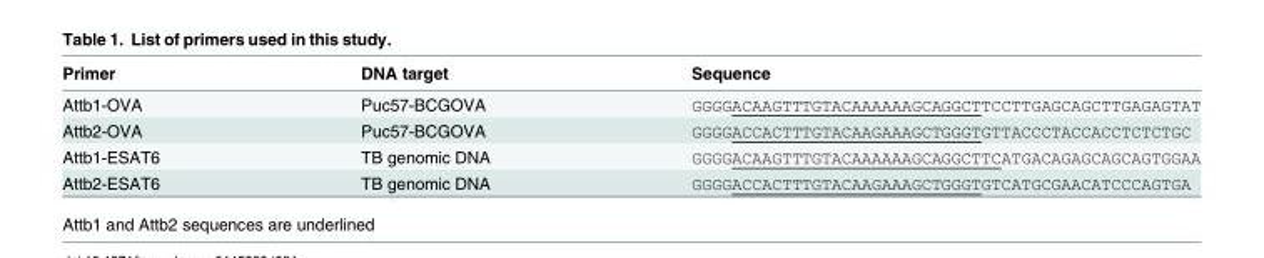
<table><thead><tr><td>Primer</td><td>DNA target</td><td>Sequence</td></tr></thead><tbody><tr><td>Attb1-OVA</td><td>Puc57-BCGOVA</td><td>GGGGACAAGTTTGTACAAAAAAGCAGGCTTCCTTGAGCAGCTTGAGAGTAT</td></tr><tr><td>Attb2-OVA</td><td>Puc57-BCGOVA</td><td>GGGGACCACTTTGTACAAGAAAGCTGGGTGTTACCCTACCACCTCTCTGC</td></tr><tr><td>Attb1-ESAT6</td><td>TB genomic DNA</td><td>GGGGACAAGTTTGTACAAAAAAGCAGGCTTCATGACAGAGCAGCAGTGGAA</td></tr><tr><td>Attb2-ESAT6</td><td>TB genomic DNA</td><td>GGGGACCACTTTGTACAAGAAAGCTGGGTGTCATGCGAACATCCCAGTGA</td></tr></tbody></table>